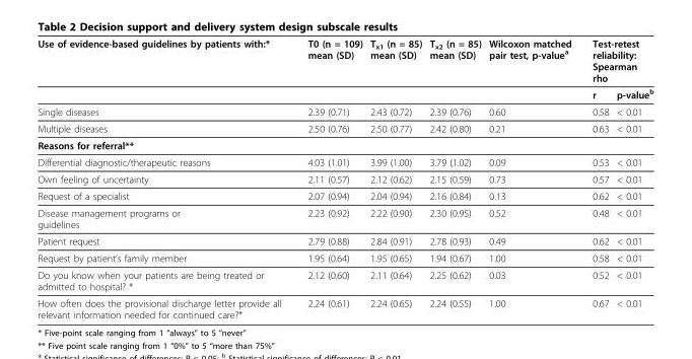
<table><thead><tr><td rowspan="2">Use of evidence-based guidelines by patients with:*</td><td rowspan="2">T0 (n = 109) mean (SD)</td><td rowspan="2">T<sub>x1</sub> (n = 85) mean (SD)</td><td rowspan="2">T<sub>x2</sub> (n = 85) mean (SD)</td><td rowspan="2">Wilcoxon matched pair test, p-value<sup>a</sup></td><td colspan="2">Test-retest reliability: Spearman rho</td></tr><tr><td>r</td><td>p-value<sup>b</sup></td></tr></thead><tbody><tr><td>Single diseases</td><td>2.39 (0.71)</td><td>2.43 (0.72)</td><td>2.39 (0.76)</td><td>0.60</td><td>0.58</td><td>&lt; 0.01</td></tr><tr><td>Multiple diseases</td><td>2.50 (0.76)</td><td>2.50 (0.77)</td><td>2.42 (0.80)</td><td>0.21</td><td>0.63</td><td>&lt; 0.01</td></tr><tr><td colspan="7">Reasons for referral**</td></tr><tr><td>Differential diagnostic/therapeutic reasons</td><td>4.03 (1.01)</td><td>3.99 (1.00)</td><td>3.79 (1.02)</td><td>0.09</td><td>0.53</td><td>&lt; 0.01</td></tr><tr><td>Own feeling of uncertainty</td><td>2.11 (0.57)</td><td>2.12 (0.62)</td><td>2.15 (0.59)</td><td>0.73</td><td>0.57</td><td>&lt; 0.01</td></tr><tr><td>Request of a specialist</td><td>2.07 (0.94)</td><td>2.04 (0.94)</td><td>2.16 (0.84)</td><td>0.13</td><td>0.62</td><td>&lt; 0.01</td></tr><tr><td>Disease management programs or guidelines</td><td>2.23 (0.92)</td><td>2.22 (0.90)</td><td>2.30 (0.95)</td><td>0.52</td><td>0.48</td><td>&lt; 0.01</td></tr><tr><td>Patient request</td><td>2.79 (0.88)</td><td>2.84 (0.91)</td><td>2.78 (0.93)</td><td>0.49</td><td>0.62</td><td>&lt; 0.01</td></tr><tr><td>Request by patient’s family member</td><td>1.95 (0.64)</td><td>1.95 (0.65)</td><td>1.94 (0.67)</td><td>1.00</td><td>0.58</td><td>&lt; 0.01</td></tr><tr><td>Do you know when your patients are being treated or admitted to hospital? *</td><td>2.12 (0.60)</td><td>2.11 (0.64)</td><td>2.25 (0.62)</td><td>0.03</td><td>0.52</td><td>&lt; 0.01</td></tr><tr><td>How often does the provisional discharge letter provide all relevant information needed for continued care?*</td><td>2.24 (0.61)</td><td>2.24 (0.65)</td><td>2.24 (0.55)</td><td>1.00</td><td>0.67</td><td>&lt; 0.01</td></tr></tbody></table>